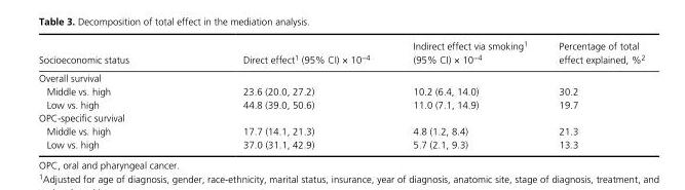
<table><thead><tr><td>Socioeconomic status</td><td>Direct effect<sup>1</sup> (95% CI) × 10<sup>−4</sup></td><td>Indirect effect via smoking<sup>1</sup> (95% CI) × 10<sup>−4</sup></td><td>Percentage of total effect explained, %<sup>2</sup></td></tr></thead><tbody><tr><td colspan="4">Overall survival</td></tr><tr><td>Middle vs. high</td><td>23.6 (20.0, 27.2)</td><td>10.2 (6.4, 14.0)</td><td>30.2</td></tr><tr><td>Low vs. high</td><td>44.8 (39.0, 50.6)</td><td>11.0 (7.1, 14.9)</td><td>19.7</td></tr><tr><td colspan="4">OPC- specific survival</td></tr><tr><td>Middle vs. high</td><td>17.7 (14.1, 21.3)</td><td>4.8 (1.2, 8.4)</td><td>21.3</td></tr><tr><td>Low vs. high</td><td>37.0 (31.1, 42.9)</td><td>5.7 (2.1, 9.3)</td><td>13.3</td></tr></tbody></table>